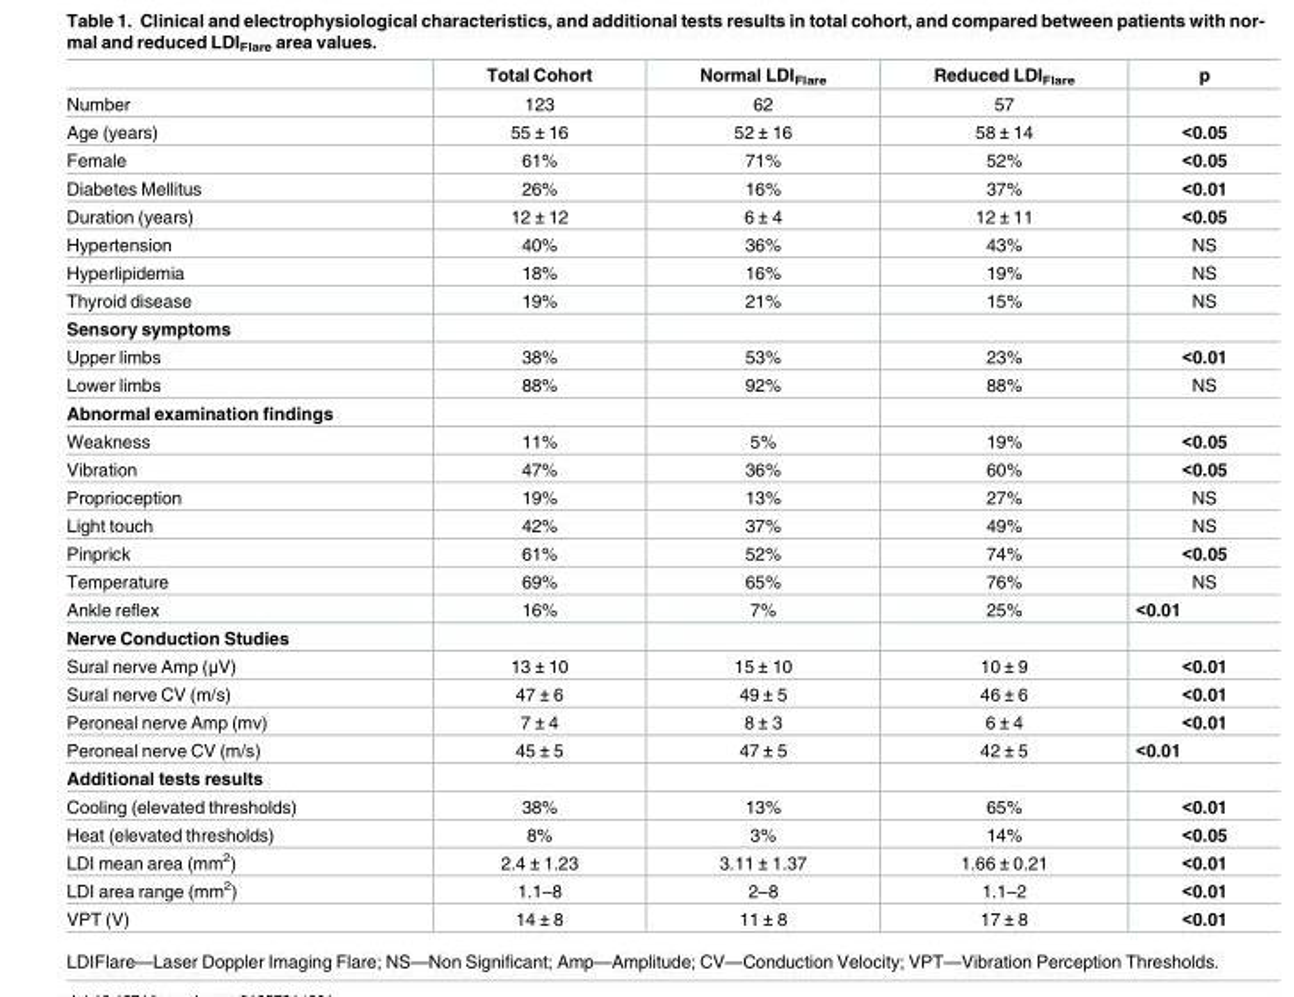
<table><thead><tr><td></td><td>Total Cohort</td><td>Normal LDI<sub>Flare</sub></td><td>Reduced LDI<sub>Flare</sub></td><td>p</td></tr></thead><tbody><tr><td>Number</td><td>123</td><td>62</td><td>57</td><td></td></tr><tr><td>Age (years)</td><td>55 ± 16</td><td>52 ± 16</td><td>58 ± 14</td><td>&lt;0.05</td></tr><tr><td>Female</td><td>61%</td><td>71%</td><td>52%</td><td>&lt;0.05</td></tr><tr><td>Diabetes Mellitus</td><td>26%</td><td>16%</td><td>37%</td><td>&lt;0.01</td></tr><tr><td>Duration (years)</td><td>12 ± 12</td><td>6 ± 4</td><td>12 ± 11</td><td>&lt;0.05</td></tr><tr><td>Hypertension</td><td>40%</td><td>36%</td><td>43%</td><td>NS</td></tr><tr><td>Hyperlipidemia</td><td>18%</td><td>16%</td><td>19%</td><td>NS</td></tr><tr><td>Thyroid disease</td><td>19%</td><td>21%</td><td>15%</td><td>NS</td></tr><tr><td colspan="5">Sensory symptoms</td></tr><tr><td>Upper limbs</td><td>38%</td><td>53%</td><td>23%</td><td>&lt;0.01</td></tr><tr><td>Lower limbs</td><td>88%</td><td>92%</td><td>88%</td><td>NS</td></tr><tr><td colspan="5">Abnormal examination findings</td></tr><tr><td>Weakness</td><td>11%</td><td>5%</td><td>19%</td><td>&lt;0.05</td></tr><tr><td>Vibration</td><td>47%</td><td>36%</td><td>60%</td><td>&lt;0.05</td></tr><tr><td>Proprioception</td><td>19%</td><td>13%</td><td>27%</td><td>NS</td></tr><tr><td>Light touch</td><td>42%</td><td>37%</td><td>49%</td><td>NS</td></tr><tr><td>Pinprick</td><td>61%</td><td>52%</td><td>74%</td><td>&lt;0.05</td></tr><tr><td>Temperature</td><td>69%</td><td>65%</td><td>76%</td><td>NS</td></tr><tr><td>Ankle reflex</td><td>16%</td><td>7%</td><td>25%</td><td>&lt;0.01</td></tr><tr><td colspan="5">Nerve Conduction Studies</td></tr><tr><td>Sural nerve Amp (μV)</td><td>13 ± 10</td><td>15 ± 10</td><td>10 ± 9</td><td>&lt;0.01</td></tr><tr><td>Sural nerve CV (m/s)</td><td>47 ± 6</td><td>49 ± 5</td><td>46 ± 6</td><td>&lt;0.01</td></tr><tr><td>Peroneal nerve Amp (mv)</td><td>7 ± 4</td><td>8 ± 3</td><td>6 ± 4</td><td>&lt;0.01</td></tr><tr><td>Peroneal nerve CV (m/s)</td><td>45 ± 5</td><td>47 ± 5</td><td>42 ± 5</td><td>&lt;0.01</td></tr><tr><td colspan="5">Additional tests results</td></tr><tr><td>Cooling (elevated thresholds)</td><td>38%</td><td>13%</td><td>65%</td><td>&lt;0.01</td></tr><tr><td>Heat (elevated thresholds)</td><td>8%</td><td>3%</td><td>14%</td><td>&lt;0.05</td></tr><tr><td>LDI mean area (mm<sup>2</sup>)</td><td>2.4 ± 1.23</td><td>3.11 ± 1.37</td><td>1.66 ± 0.21</td><td>&lt;0.01</td></tr><tr><td>LDI area range (mm<sup>2</sup>)</td><td>1.1–8</td><td>2–8</td><td>1.1–2</td><td>&lt;0.01</td></tr><tr><td>VPT (V)</td><td>14 ± 8</td><td>11 ± 8</td><td>17 ± 8</td><td>&lt;0.01</td></tr></tbody></table>